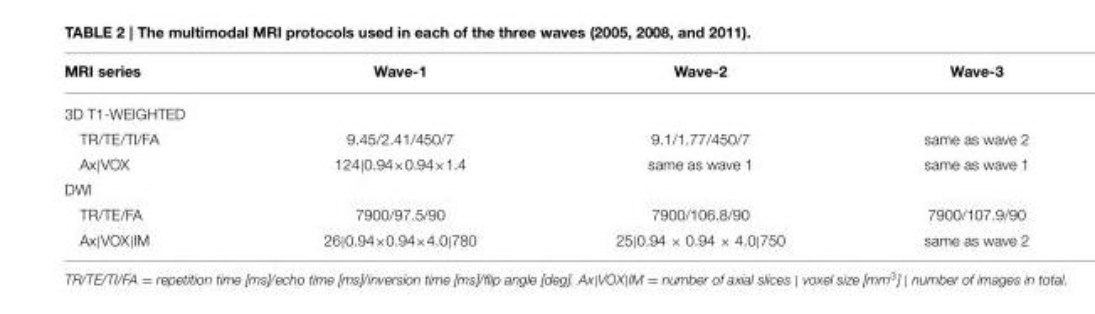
<table><thead><tr><td>MRI series</td><td>Wave-1</td><td>Wave-2</td><td>Wave-3</td></tr></thead><tbody><tr><td colspan="4">3D T1-WEIGHTED</td></tr><tr><td>TR/TE/TI/FA</td><td>9.45/2.41/450/7</td><td>9.1/1.77/450/7</td><td>same as wave 2</td></tr><tr><td>Ax|VOX</td><td>124|0.94×0.94×1.4</td><td>same as wave 1</td><td>same as wave 1</td></tr><tr><td colspan="4">DWI</td></tr><tr><td>TR/TE/FA</td><td>7900/97.5/90</td><td>7900/106.8/90</td><td>7900/107.9/90</td></tr><tr><td>Ax|VOX|IM</td><td>26|0.94×0.94×4.0|780</td><td>25|0.94 × 0.94 × 4.0|750</td><td>same as wave 2</td></tr></tbody></table>